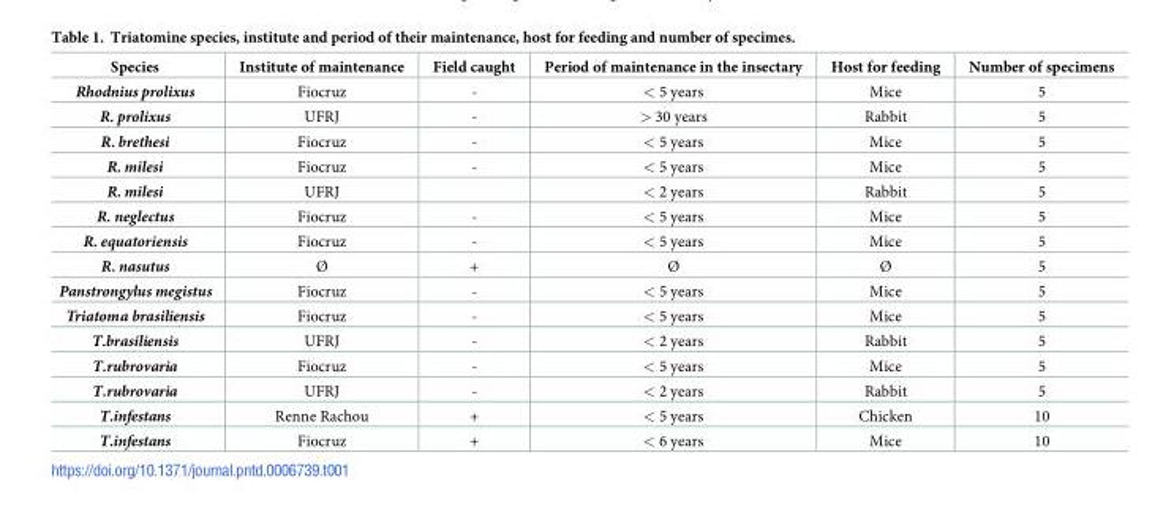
<table><thead><tr><td>Species</td><td>Institute of maintenance</td><td>Field caught</td><td>Period of maintenance in the insectary</td><td>Host for feeding</td><td>Number of specimens</td></tr></thead><tbody><tr><td>Rhodnius prolixus</td><td>Fiocruz</td><td>-</td><td>&lt; 5 years</td><td>Mice</td><td>5</td></tr><tr><td>R. prolixus</td><td>UFRJ</td><td>-</td><td>&gt; 30 years</td><td>Rabbit</td><td>5</td></tr><tr><td>R. brethesi</td><td>Fiocruz</td><td>-</td><td>&lt; 5 years</td><td>Mice</td><td>5</td></tr><tr><td>R. milesi</td><td>Fiocruz</td><td>-</td><td>&lt; 5 years</td><td>Mice</td><td>5</td></tr><tr><td>R. milesi</td><td>UFRJ</td><td></td><td>&lt; 2 years</td><td>Rabbit</td><td>5</td></tr><tr><td>R. neglectus</td><td>Fiocruz</td><td>-</td><td>&lt; 5 years</td><td>Mice</td><td>5</td></tr><tr><td>R. equatoriensis</td><td>Fiocruz</td><td>-</td><td>&lt; 5 years</td><td>Mice</td><td>5</td></tr><tr><td>R. nasutus</td><td>Ø</td><td>+</td><td>Ø</td><td>Ø</td><td>5</td></tr><tr><td>Panstrongylus megistus</td><td>Fiocruz</td><td>-</td><td>&lt; 5 years</td><td>Mice</td><td>5</td></tr><tr><td>Triatoma brasiliensis</td><td>Fiocruz</td><td>-</td><td>&lt; 5 years</td><td>Mice</td><td>5</td></tr><tr><td>T.brasiliensis</td><td>UFRJ</td><td>-</td><td>&lt; 2 years</td><td>Rabbit</td><td>5</td></tr><tr><td>T.rubrovaria</td><td>Fiocruz</td><td>-</td><td>&lt; 5 years</td><td>Mice</td><td>5</td></tr><tr><td>T.rubrovaria</td><td>UFRJ</td><td>-</td><td>&lt; 2 years</td><td>Rabbit</td><td>5</td></tr><tr><td>T.infestans</td><td>Renne Rachou</td><td>+</td><td>&lt; 5 years</td><td>Chicken</td><td>10</td></tr><tr><td>T.infestans</td><td>Fiocruz</td><td>+</td><td>&lt; 6 years</td><td>Mice</td><td>10</td></tr></tbody></table>